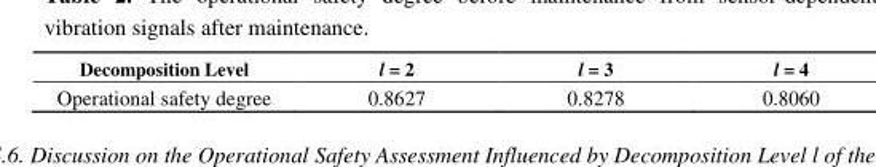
<table><thead><tr><td>Decomposition Level</td><td>l = 2</td><td>l = 3</td><td>l = 4</td></tr></thead><tbody><tr><td>Operational safety degree</td><td>0.8627</td><td>0.8278</td><td>0.8060</td></tr></tbody></table>